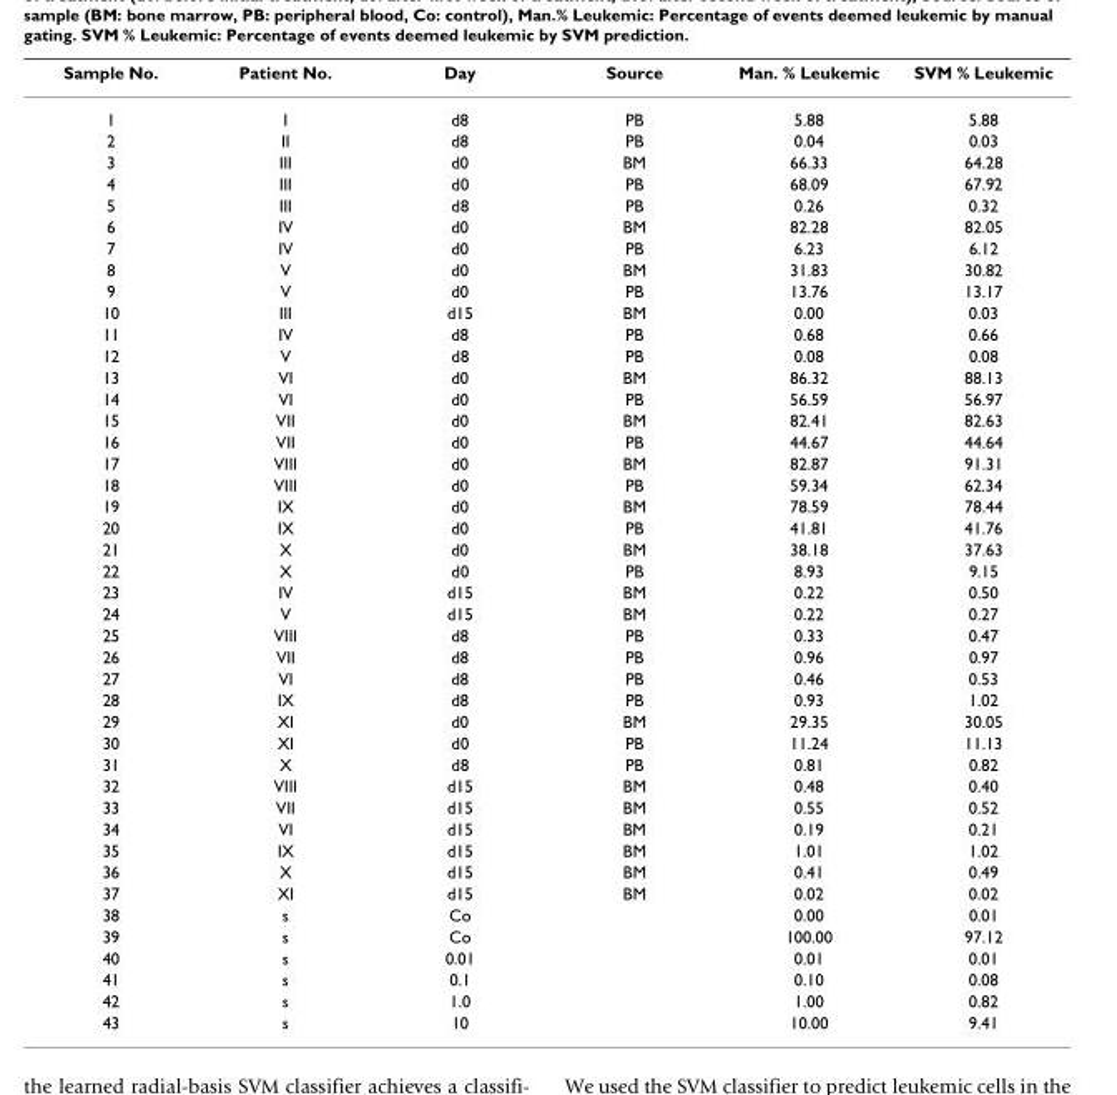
<table><thead><tr><td>Sample No.</td><td>Patient No.</td><td>Day</td><td>Source</td><td>Man. % Leukemic</td><td>SVM % Leukemic</td></tr></thead><tbody><tr><td>1</td><td>I</td><td>d8</td><td>PB</td><td>5.88</td><td>5.88</td></tr><tr><td>2</td><td>II</td><td>d8</td><td>PB</td><td>0.04</td><td>0.03</td></tr><tr><td>3</td><td>III</td><td>d0</td><td>BM</td><td>66.33</td><td>64.28</td></tr><tr><td>4</td><td>III</td><td>d0</td><td>PB</td><td>68.09</td><td>67.92</td></tr><tr><td>5</td><td>III</td><td>d8</td><td>PB</td><td>0.26</td><td>0.32</td></tr><tr><td>6</td><td>IV</td><td>d0</td><td>BM</td><td>82.28</td><td>82.05</td></tr><tr><td>7</td><td>IV</td><td>d0</td><td>PB</td><td>6.23</td><td>6.12</td></tr><tr><td>8</td><td>V</td><td>d0</td><td>BM</td><td>31.83</td><td>30.82</td></tr><tr><td>9</td><td>V</td><td>d0</td><td>PB</td><td>13.76</td><td>13.17</td></tr><tr><td>10</td><td>III</td><td>d15</td><td>BM</td><td>0.00</td><td>0.03</td></tr><tr><td>11</td><td>IV</td><td>d8</td><td>PB</td><td>0.68</td><td>0.66</td></tr><tr><td>12</td><td>V</td><td>d8</td><td>PB</td><td>0.08</td><td>0.08</td></tr><tr><td>13</td><td>VI</td><td>d0</td><td>BM</td><td>86.32</td><td>88.13</td></tr><tr><td>14</td><td>VI</td><td>d0</td><td>PB</td><td>56.59</td><td>56.97</td></tr><tr><td>15</td><td>VII</td><td>d0</td><td>BM</td><td>82.41</td><td>82.63</td></tr><tr><td>16</td><td>VII</td><td>d0</td><td>PB</td><td>44.67</td><td>44.64</td></tr><tr><td>17</td><td>VIII</td><td>d0</td><td>BM</td><td>82.87</td><td>91.31</td></tr><tr><td>18</td><td>VIII</td><td>d0</td><td>PB</td><td>59.34</td><td>62.34</td></tr><tr><td>19</td><td>IX</td><td>d0</td><td>BM</td><td>78.59</td><td>78.44</td></tr><tr><td>20</td><td>IX</td><td>d0</td><td>PB</td><td>41.81</td><td>41.76</td></tr><tr><td>21</td><td>X</td><td>d0</td><td>BM</td><td>38.18</td><td>37.63</td></tr><tr><td>22</td><td>X</td><td>d0</td><td>PB</td><td>8.93</td><td>9.15</td></tr><tr><td>23</td><td>IV</td><td>d15</td><td>BM</td><td>0.22</td><td>0.50</td></tr><tr><td>24</td><td>V</td><td>d15</td><td>BM</td><td>0.22</td><td>0.27</td></tr><tr><td>25</td><td>VIII</td><td>d8</td><td>PB</td><td>0.33</td><td>0.47</td></tr><tr><td>26</td><td>VII</td><td>d8</td><td>PB</td><td>0.96</td><td>0.97</td></tr><tr><td>27</td><td>VI</td><td>d8</td><td>PB</td><td>0.46</td><td>0.53</td></tr><tr><td>28</td><td>IX</td><td>d8</td><td>PB</td><td>0.93</td><td>1.02</td></tr><tr><td>29</td><td>XI</td><td>d0</td><td>BM</td><td>29.35</td><td>30.05</td></tr><tr><td>30</td><td>XI</td><td>d0</td><td>PB</td><td>11.24</td><td>11.13</td></tr><tr><td>31</td><td>X</td><td>d8</td><td>PB</td><td>0.81</td><td>0.82</td></tr><tr><td>32</td><td>VIII</td><td>d15</td><td>BM</td><td>0.48</td><td>0.40</td></tr><tr><td>33</td><td>VII</td><td>d15</td><td>BM</td><td>0.55</td><td>0.52</td></tr><tr><td>34</td><td>VI</td><td>d15</td><td>BM</td><td>0.19</td><td>0.21</td></tr><tr><td>35</td><td>IX</td><td>d15</td><td>BM</td><td>1.01</td><td>1.02</td></tr><tr><td>36</td><td>X</td><td>d15</td><td>BM</td><td>0.41</td><td>0.49</td></tr><tr><td>37</td><td>XI</td><td>d15</td><td>BM</td><td>0.02</td><td>0.02</td></tr><tr><td>38</td><td>s</td><td>Co</td><td></td><td>0.00</td><td>0.01</td></tr><tr><td>39</td><td>s</td><td>Co</td><td></td><td>100.00</td><td>97.12</td></tr><tr><td>40</td><td>s</td><td>0.01</td><td></td><td>0.01</td><td>0.01</td></tr><tr><td>41</td><td>s</td><td>0.1</td><td></td><td>0.10</td><td>0.08</td></tr><tr><td>42</td><td>s</td><td>1.0</td><td></td><td>1.00</td><td>0.82</td></tr><tr><td>43</td><td>s</td><td>10</td><td></td><td>10.00</td><td>9.41</td></tr></tbody></table>